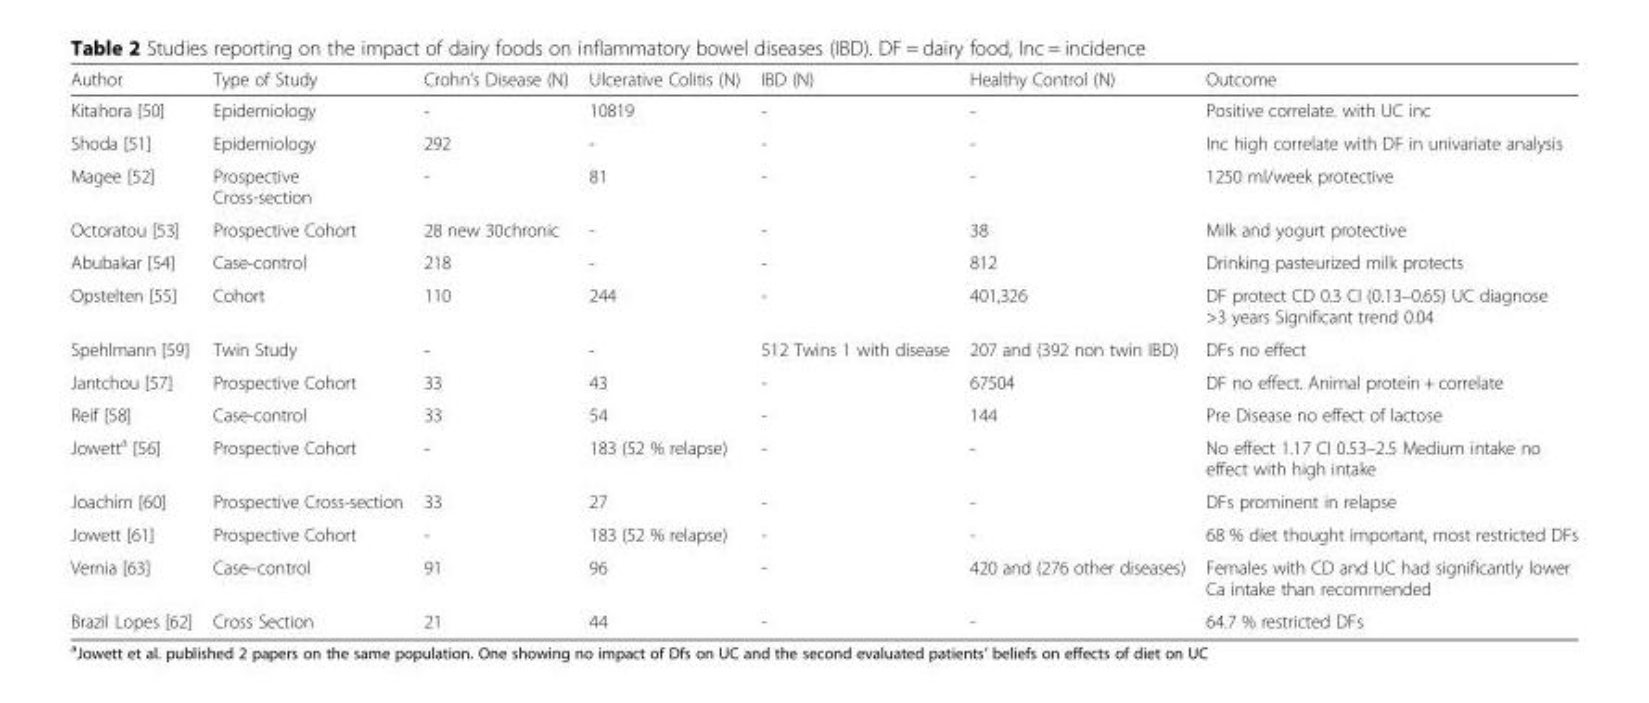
<table><thead><tr><td>Author</td><td>Type of Study</td><td>Crohn’s Disease (N)</td><td>Ulcerative Colitis (N)</td><td>IBD (N)</td><td>Healthy Control (N)</td><td>Outcome</td></tr></thead><tbody><tr><td>Kitahora [50]</td><td>Epidemiology</td><td>-</td><td>10819</td><td>-</td><td>-</td><td>Positive correlate. with UC inc</td></tr><tr><td>Shoda [51]</td><td>Epidemiology</td><td>292</td><td>-</td><td>-</td><td>-</td><td>Inc high correlate with DF in univariate analysis</td></tr><tr><td>Magee [52]</td><td>Prospective Cross-section</td><td>-</td><td>81</td><td>-</td><td>-</td><td>1250 ml/week protective</td></tr><tr><td>Octoratou [53]</td><td>Prospective Cohort</td><td>28 new 30chronic</td><td>-</td><td>-</td><td>38</td><td>Milk and yogurt protective</td></tr><tr><td>Abubakar [54]</td><td>Case-control</td><td>218</td><td>-</td><td>-</td><td>812</td><td>Drinking pasteurized milk protects</td></tr><tr><td>Opstelten [55]</td><td>Cohort</td><td>110</td><td>244</td><td>-</td><td>401,326</td><td>DF protect CD 0.3 CI (0.13–0.65) UC diagnose &gt;3 years Significant trend 0.04</td></tr><tr><td>Spehlmann [59]</td><td>Twin Study</td><td>-</td><td>-</td><td>512 Twins 1 with disease</td><td>207 and (392 non twin IBD)</td><td>DFs no effect</td></tr><tr><td>Jantchou [57]</td><td>Prospective Cohort</td><td>33</td><td>43</td><td>-</td><td>67504</td><td>DF no effect. Animal protein + correlate</td></tr><tr><td>Reif [58]</td><td>Case-control</td><td>33</td><td>54</td><td>-</td><td>144</td><td>Pre Disease no effect of lactose</td></tr><tr><td>Jowett<sup>a</sup> [56]</td><td>Prospective Cohort</td><td>-</td><td>183 (52 % relapse)</td><td>-</td><td>-</td><td>No effect 1.17 CI 0.53–2.5 Medium intake no effect with high intake</td></tr><tr><td>Joachim [60]</td><td>Prospective Cross-section</td><td>33</td><td>27</td><td>-</td><td>-</td><td>DFs prominent in relapse</td></tr><tr><td>Jowett [61]</td><td>Prospective Cohort</td><td>-</td><td>183 (52 % relapse)</td><td>-</td><td>-</td><td>68 % diet thought important, most restricted DFs</td></tr><tr><td>Vernia [63]</td><td>Case–control</td><td>91</td><td>96</td><td>-</td><td>420 and (276 other diseases)</td><td>Females with CD and UC had significantly lower Ca intake than recommended</td></tr><tr><td>Brazil Lopes [62]</td><td>Cross Section</td><td>21</td><td>44</td><td>-</td><td>-</td><td>64.7 % restricted DFs</td></tr></tbody></table>